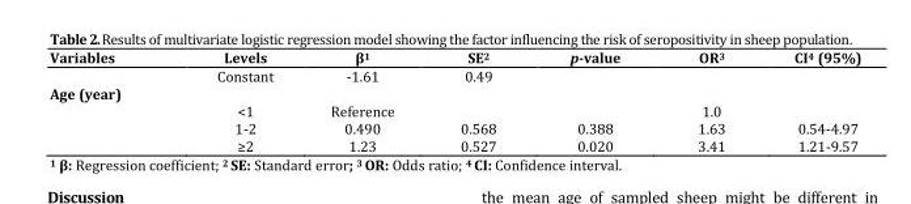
<table><thead><tr><td>Variables</td><td>Levels</td><td>β1</td><td>SE2</td><td>p-value</td><td>OR3</td><td>CI4 (95%)</td></tr></thead><tbody><tr><td></td><td>Constant</td><td>-1.61</td><td>0.49</td><td></td><td></td><td></td></tr><tr><td colspan="7">Age (year)</td></tr><tr><td></td><td>&lt;1</td><td>Reference</td><td></td><td></td><td>1.0</td><td></td></tr><tr><td></td><td>1-2</td><td>0.490</td><td>0.568</td><td>0.388</td><td>1.63</td><td>0.54-4.97</td></tr><tr><td></td><td>≥2</td><td>1.23</td><td>0.527</td><td>0.020</td><td>3.41</td><td>1.21-9.57</td></tr></tbody></table>